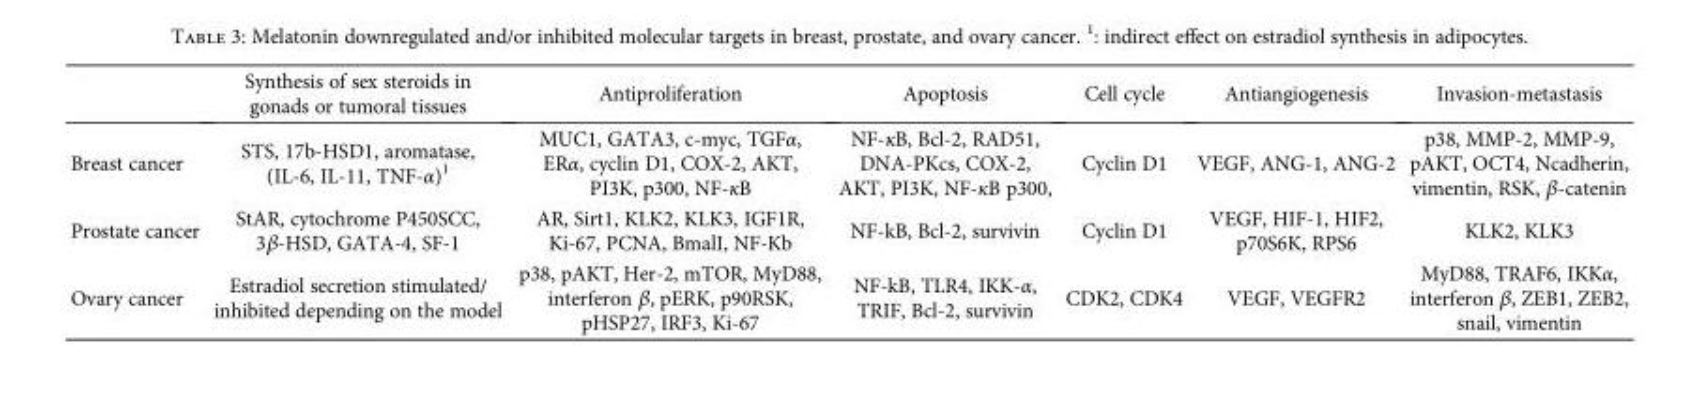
<table><thead><tr><td></td><td>Synthesis of sex steroids in gonads or tumoral tissues</td><td>Antiproliferation</td><td>Apoptosis</td><td>Cell cycle</td><td>Antiangiogenesis</td><td>Invasion-metastasis</td></tr></thead><tbody><tr><td>Breast cancer</td><td>STS, 17b-HSD1, aromatase, (IL-6, IL-11, TNF-α)<sup>1</sup></td><td>MUC1, GATA3, c-myc, TGFα, ERα, cyclin D1, COX-2, AKT, PI3K, p300, NF-κB</td><td>NF-κB, Bcl-2, RAD51, DNA-PKcs, COX-2, AKT, PI3K, NF-κB p300,</td><td>Cyclin D1</td><td>VEGF, ANG-1, ANG-2</td><td>p38, MMP-2, MMP-9, pAKT, OCT4, Ncadherin, vimentin, RSK, β-catenin</td></tr><tr><td>Prostate cancer</td><td>StAR, cytochrome P450SCC, 3β-HSD, GATA-4, SF-1</td><td>AR, Sirt1, KLK2, KLK3, IGF1R, Ki-67, PCNA, BmalI, NF-Kb</td><td>NF-kB, Bcl-2, survivin</td><td>Cyclin D1</td><td>VEGF, HIF-1, HIF2, p70S6K, RPS6</td><td>KLK2, KLK3</td></tr><tr><td>Ovary cancer</td><td>Estradiol secretion stimulated/ inhibited depending on the model</td><td>p38, pAKT, Her-2, mTOR, MyD88, interferon β, pERK, p90RSK, pHSP27, IRF3, Ki-67</td><td>NF-kB, TLR4, IKK-α, TRIF, Bcl-2, survivin</td><td>CDK2, CDK4</td><td>VEGF, VEGFR2</td><td>MyD88, TRAF6, IKKα, interferon β, ZEB1, ZEB2, snail, vimentin</td></tr></tbody></table>